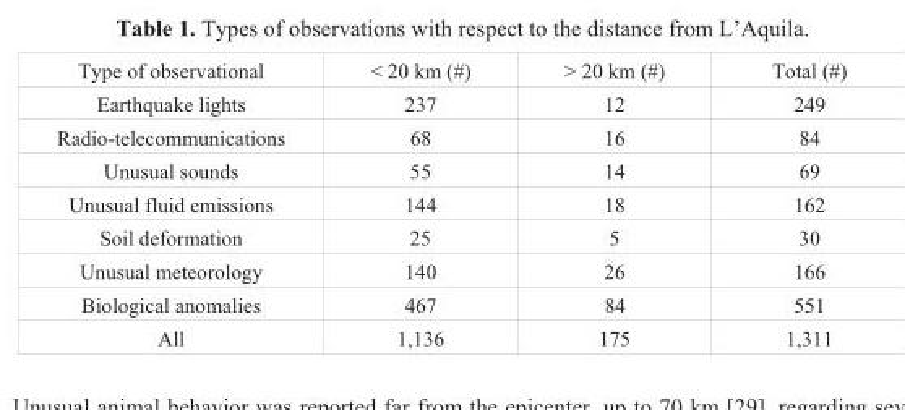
<table><tbody><tr><td>Type of observational</td><td>&lt; 20 km (#)</td><td>&gt; 20 km (#)</td><td>Total (#)</td></tr><tr><td>Earthquake lights</td><td>237</td><td>12</td><td>249</td></tr><tr><td>Radio-telecommunications</td><td>68</td><td>16</td><td>84</td></tr><tr><td>Unusual sounds</td><td>55</td><td>14</td><td>69</td></tr><tr><td>Unusual fluid emissions</td><td>144</td><td>18</td><td>162</td></tr><tr><td>Soil deformation</td><td>25</td><td>5</td><td>30</td></tr><tr><td>Unusual meteorology</td><td>140</td><td>26</td><td>166</td></tr><tr><td>Biological anomalies</td><td>467</td><td>84</td><td>551</td></tr><tr><td>All</td><td>1,136</td><td>175</td><td>1,311</td></tr></tbody></table>